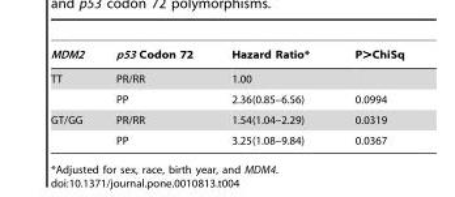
<table><thead><tr><td>MDM2</td><td>p53 Codon 72</td><td>Hazard Ratio*</td><td>P&gt;ChiSq</td></tr></thead><tbody><tr><td rowspan="2">TT</td><td>PR/RR</td><td>1.00</td><td></td></tr><tr><td>PP</td><td>2.36(0.85–6.56)</td><td>0.0994</td></tr><tr><td rowspan="2">GT/GG</td><td>PR/RR</td><td>1.54(1.04–2.29)</td><td>0.0319</td></tr><tr><td>PP</td><td>3.25(1.08–9.84)</td><td>0.0367</td></tr></tbody></table>